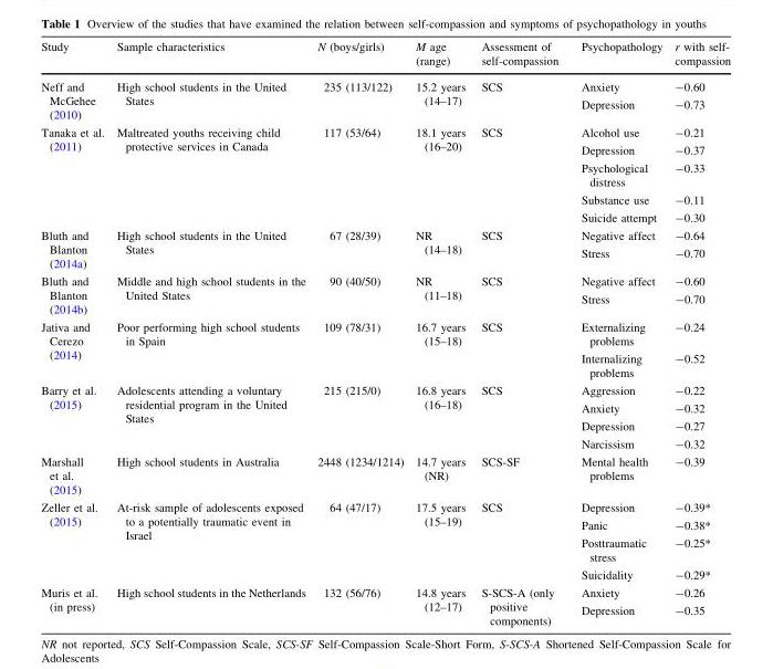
<table><thead><tr><td>Study</td><td>Sample characteristics</td><td>N (boys/girls)</td><td>M age (range)</td><td>Assessment of self-compassion</td><td>Psychopathology</td><td>r with self- compassion</td></tr></thead><tbody><tr><td rowspan="2">Neff and McGehee (2010)</td><td rowspan="2">High school students in the United States</td><td rowspan="2">235 (113/122)</td><td rowspan="2">15.2 years (14–17)</td><td rowspan="2">SCS</td><td>Anxiety</td><td>-0.60</td></tr><tr><td>Depression</td><td>-0.73</td></tr><tr><td rowspan="5">Tanaka et al. (2011)</td><td rowspan="5">Maltreated youths receiving child protective services in Canada</td><td rowspan="5">117 (53/64)</td><td rowspan="5">18.1 years (16–20)</td><td rowspan="5">SCS</td><td>Alcohol use</td><td>-0.21</td></tr><tr><td>Depression</td><td>-0.37</td></tr><tr><td>Psychological distress</td><td>-0.33</td></tr><tr><td>Substance use</td><td>-0.11</td></tr><tr><td>Suicide attempt</td><td>-0.30</td></tr><tr><td rowspan="2">Bluth and Blanton (2014a)</td><td rowspan="2">High school students in the United States</td><td rowspan="2">67 (28/39)</td><td rowspan="2">NR (14–18)</td><td rowspan="2">SCS</td><td>Negative affect</td><td>-0.64</td></tr><tr><td>Stress</td><td>-0.70</td></tr><tr><td rowspan="2">Bluth and Blanton (2014b)</td><td rowspan="2">Middle and high school students in the United States</td><td rowspan="2">90 (40/50)</td><td rowspan="2">NR (11–18)</td><td rowspan="2">SCS</td><td>Negative affect</td><td>-0.60</td></tr><tr><td>Stress</td><td>-0.70</td></tr><tr><td rowspan="2">Jativa and Cerezo (2014)</td><td rowspan="2">Poor performing high school students in Spain</td><td rowspan="2">109 (78/31)</td><td rowspan="2">16.7 years (15–18)</td><td rowspan="2">SCS</td><td>Externalizing problems</td><td>-0.24</td></tr><tr><td>Internalizing problems</td><td>-0.52</td></tr><tr><td rowspan="4">Barry et al. (2015)</td><td rowspan="4">Adolescents attending a voluntary residential program in the United States</td><td rowspan="4">215 (215/0)</td><td rowspan="4">16.8 years (16–18)</td><td rowspan="4">SCS</td><td>Aggression</td><td>-0.22</td></tr><tr><td>Anxiety</td><td>-0.32</td></tr><tr><td>Depression</td><td>-0.27</td></tr><tr><td>Narcissism</td><td>-0.32</td></tr><tr><td>Marshall et al. (2015)</td><td>High school students in Australia</td><td>2448 (1234/1214)</td><td>14.7 years (NR)</td><td>SCS-SF</td><td>Mental health problems</td><td>-0.39</td></tr><tr><td rowspan="4">Zeller et al. (2015)</td><td rowspan="4">At-risk sample of adolescents exposed to a potentially traumatic event in Israel</td><td rowspan="4">64 (47/17)</td><td rowspan="4">17.5 years (15–19)</td><td rowspan="4">SCS</td><td>Depression</td><td>-0.39*</td></tr><tr><td>Panic</td><td>-0.38*</td></tr><tr><td>Posttraumatic stress</td><td>-0.25*</td></tr><tr><td>Suicidality</td><td>-0.29*</td></tr><tr><td rowspan="2">Muris et al. (in press)</td><td rowspan="2">High school students in the Netherlands</td><td rowspan="2">132 (56/76)</td><td rowspan="2">14.8 years (12–17)</td><td rowspan="2">S-SCS-A (only positive components)</td><td>Anxiety</td><td>-0.26</td></tr><tr><td>Depression</td><td>-0.35</td></tr></tbody></table>